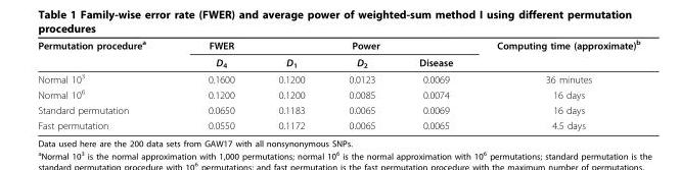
<table><thead><tr><td rowspan="2">Permutation procedure<sup>a</sup></td><td rowspan="2">FWER D<sub>4</sub></td><td colspan="3">Power</td><td rowspan="2">Computing time (approximate)<sup>b</sup></td></tr><tr><td>D<sub>1</sub></td><td>D<sub>2</sub></td><td>Disease</td></tr></thead><tbody><tr><td>Normal 10<sup>3</sup></td><td>0.1600</td><td>0.1200</td><td>0.0123</td><td>0.0069</td><td>36 minutes</td></tr><tr><td>Normal 10<sup>6</sup></td><td>0.1200</td><td>0.1200</td><td>0.0085</td><td>0.0074</td><td>16 days</td></tr><tr><td>Standard permutation</td><td>0.0650</td><td>0.1183</td><td>0.0065</td><td>0.0069</td><td>16 days</td></tr><tr><td>Fast permutation</td><td>0.0550</td><td>0.1172</td><td>0.0065</td><td>0.0065</td><td>4.5 days</td></tr></tbody></table>